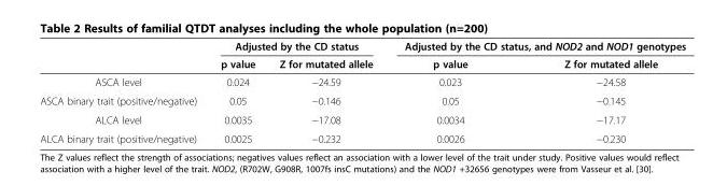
<table><thead><tr><td rowspan="2"></td><td colspan="2">Adjusted by the CD status</td><td colspan="2">Adjusted by the CD status, and NOD2 and NOD1 genotypes</td></tr><tr><td>p value</td><td>Z for mutated allele</td><td>p value</td><td>Z for mutated allele</td></tr></thead><tbody><tr><td>ASCA level</td><td>0.024</td><td>−24.59</td><td>0.023</td><td>−24.58</td></tr><tr><td>ASCA binary trait (positive/negative)</td><td>0.05</td><td>−0.146</td><td>0.05</td><td>−0.145</td></tr><tr><td>ALCA level</td><td>0.0035</td><td>−17.08</td><td>0.0034</td><td>−17.17</td></tr><tr><td>ALCA binary trait (positive/negative)</td><td>0.0025</td><td>−0.232</td><td>0.0026</td><td>−0.230</td></tr></tbody></table>